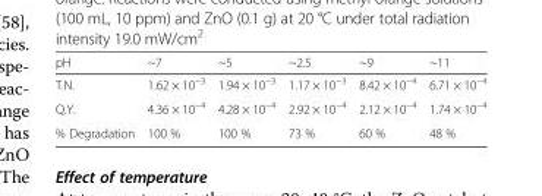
<table><thead><tr><td>pH</td><td>~7</td><td>~5</td><td>~2.5</td><td>~9</td><td>~11</td></tr></thead><tbody><tr><td>T.N.</td><td>1.62 × 10<sup>−3</sup></td><td>1.94 × 10<sup>−3</sup></td><td>1.17 × 10<sup>−3</sup></td><td>8.42 × 10<sup>−4</sup></td><td>6.71 × 10<sup>−4</sup></td></tr><tr><td>Q.Y.</td><td>4.36 × 10<sup>−4</sup></td><td>4.28 × 10<sup>−4</sup></td><td>2.92 × 10<sup>−4</sup></td><td>2.12 × 10<sup>−4</sup></td><td>1.74 × 10<sup>−4</sup></td></tr><tr><td>% Degradation</td><td>100 %</td><td>100 %</td><td>73 %</td><td>60 %</td><td>48 %</td></tr></tbody></table>